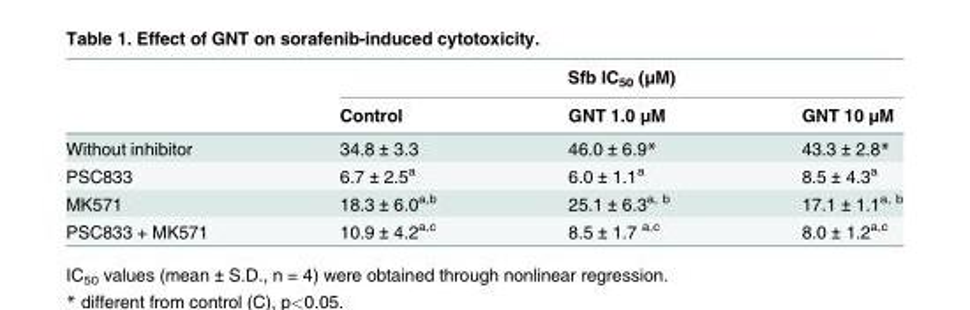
<table><thead><tr><td rowspan="2"></td><td colspan="3">Sfb IC<sub>50</sub> (μM)</td></tr><tr><td>Control</td><td>GNT 1.0 μM</td><td>GNT 10 μM</td></tr></thead><tbody><tr><td>Without inhibitor</td><td>34.8 ± 3.3</td><td>46.0 ± 6.9*</td><td>43.3 ± 2.8*</td></tr><tr><td>PSC833</td><td>6.7 ± 2.5<sup>a</sup></td><td>6.0 ± 1.1<sup>a</sup></td><td>8.5 ± 4.3<sup>a</sup></td></tr><tr><td>MK571</td><td>18.3 ± 6.0<sup>a,b</sup></td><td>25.1 ± 6.3<sup>a, b</sup></td><td>17.1 ± 1.1<sup>a, b</sup></td></tr><tr><td>PSC833 + MK571</td><td>10.9 ± 4.2<sup>a,c</sup></td><td>8.5 ± 1.7 <sup>a,c</sup></td><td>8.0 ± 1.2<sup>a,c</sup></td></tr></tbody></table>